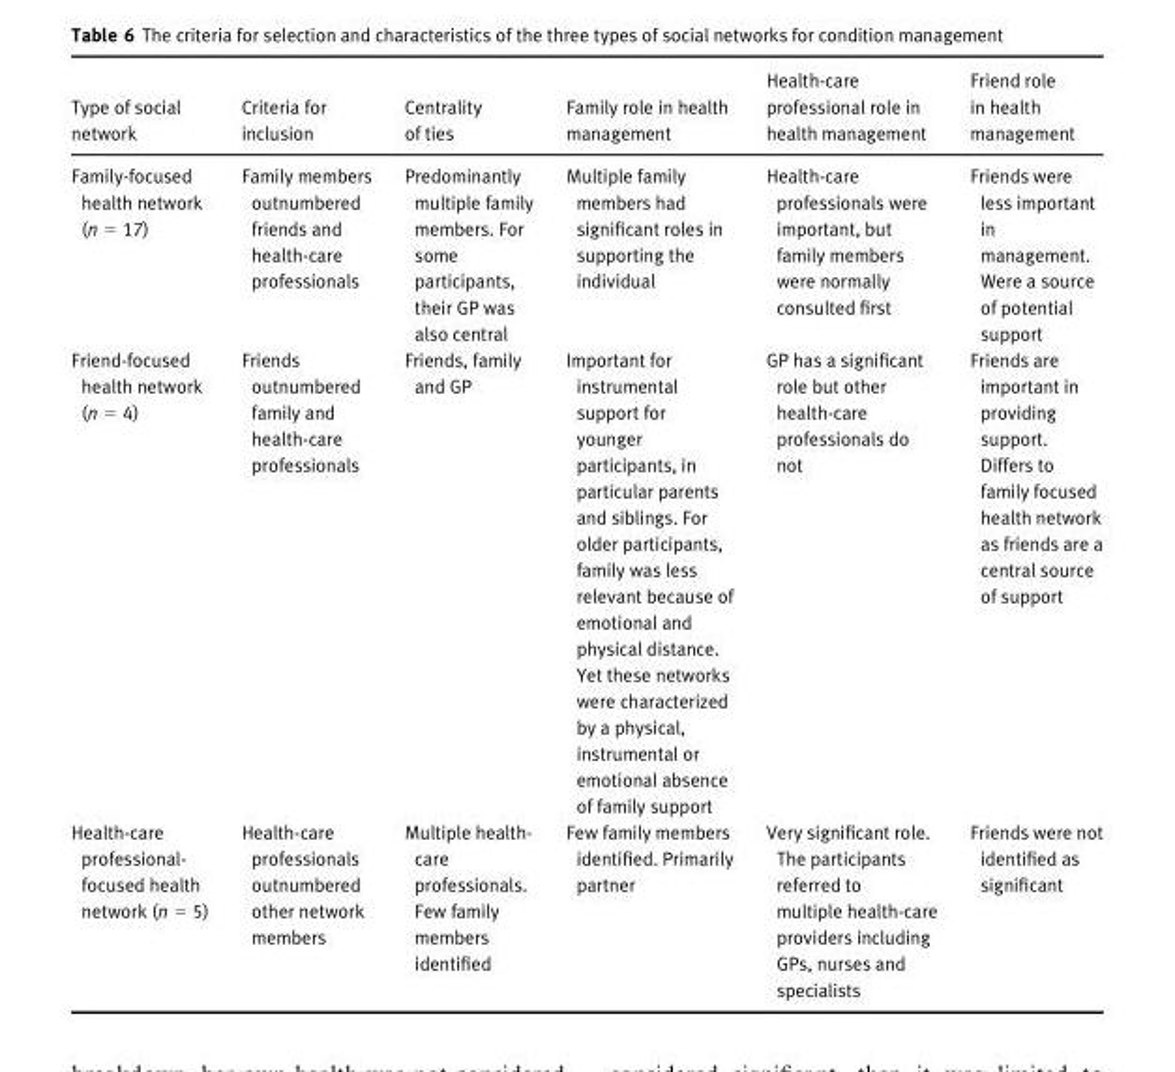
<table><thead><tr><td>Type of social network</td><td>Criteria for inclusion</td><td>Centrality of ties</td><td>Family role in health management</td><td>Health-care professional role in health management</td><td>Friend role in health management</td></tr></thead><tbody><tr><td>Family-focused health network (n = 17)</td><td>Family members outnumbered friends and health-care professionals</td><td>Predominantly multiple family members. For some participants, their GP was also central</td><td>Multiple family members had significant roles in supporting the individual</td><td>Health-care professionals were important, but family members were normally consulted first</td><td>Friends were less important in management. Were a source of potential support</td></tr><tr><td>Friend-focused health network (n = 4)</td><td>Friends outnumbered family and health-care professionals</td><td>Friends, family and GP</td><td>Important for instrumental support for younger participants, in particular parents and siblings. For older participants, family was less relevant because of emotional and physical distance. Yet these networks were characterized by a physical, instrumental or emotional absence of family support</td><td>GP has a significant role but other health-care professionals do not</td><td>Friends are important in providing support. Differs to family focused health network as friends are a central source of support</td></tr><tr><td>Health-care professional- focused health network (n = 5)</td><td>Health-care professionals outnumbered other network members</td><td>Multiple health- care professionals. Few family members identified</td><td>Few family members identified. Primarily partner</td><td>Very significant role. The participants referred to multiple health-care providers including GPs, nurses and specialists</td><td>Friends were not identified as significant</td></tr></tbody></table>